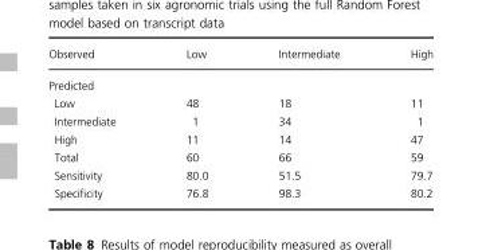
<table><thead><tr><td>Observed</td><td>Low</td><td>Intermediate</td><td>High</td></tr></thead><tbody><tr><td colspan="4">Predicted</td></tr><tr><td>Low</td><td>48</td><td>18</td><td>11</td></tr><tr><td>Intermediate</td><td>1</td><td>34</td><td>1</td></tr><tr><td>High</td><td>11</td><td>14</td><td>47</td></tr><tr><td>Total</td><td>60</td><td>66</td><td>59</td></tr><tr><td>Sensitivity</td><td>80.0</td><td>51.5</td><td>79.7</td></tr><tr><td>Specificity</td><td>76.8</td><td>98.3</td><td>80.2</td></tr></tbody></table>